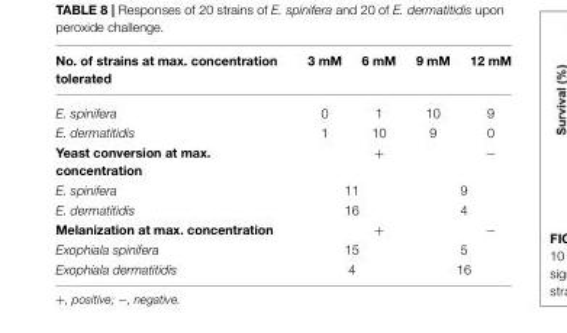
<table><thead><tr><td>No. of strains at max. concentration tolerated</td><td>3 mM</td><td>6 mM</td><td>9 mM</td><td>12 mM</td></tr></thead><tbody><tr><td>E. spinifera</td><td>0</td><td>1</td><td>10</td><td>9</td></tr><tr><td>E. dermatitidis</td><td>1</td><td>10</td><td>9</td><td>0</td></tr><tr><td>Yeast conversion at max. concentration</td><td></td><td>+</td><td></td><td>−</td></tr><tr><td>E. spinifera</td><td colspan="2">11</td><td colspan="2">9</td></tr><tr><td>E. dermatitidis</td><td colspan="2">16</td><td colspan="2">4</td></tr><tr><td>Melanization at max. concentration</td><td></td><td>+</td><td></td><td>−</td></tr><tr><td>Exophiala spinifera</td><td colspan="2">15</td><td colspan="2">5</td></tr><tr><td>Exophiala dermatitidis</td><td colspan="2">4</td><td colspan="2">16</td></tr></tbody></table>